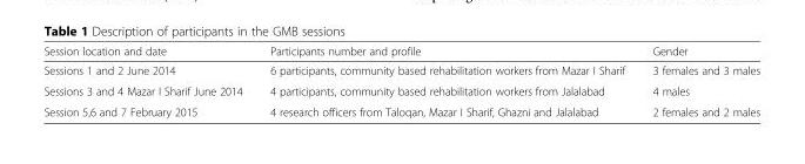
<table><thead><tr><td>Session location and date</td><td>Participants number and profile</td><td>Gender</td></tr></thead><tbody><tr><td>Sessions 1 and 2 June 2014</td><td>6 participants, community based rehabilitation workers from Mazar I Sharif</td><td>3 females and 3 males</td></tr><tr><td>Sessions 3 and 4 Mazar I Sharif June 2014</td><td>4 participants, community based rehabilitation workers from Jalalabad</td><td>4 males</td></tr><tr><td>Session 5,6 and 7 February 2015</td><td>4 research officers from Taloqan, Mazar I Sharif, Ghazni and Jalalabad</td><td>2 females and 2 males</td></tr></tbody></table>